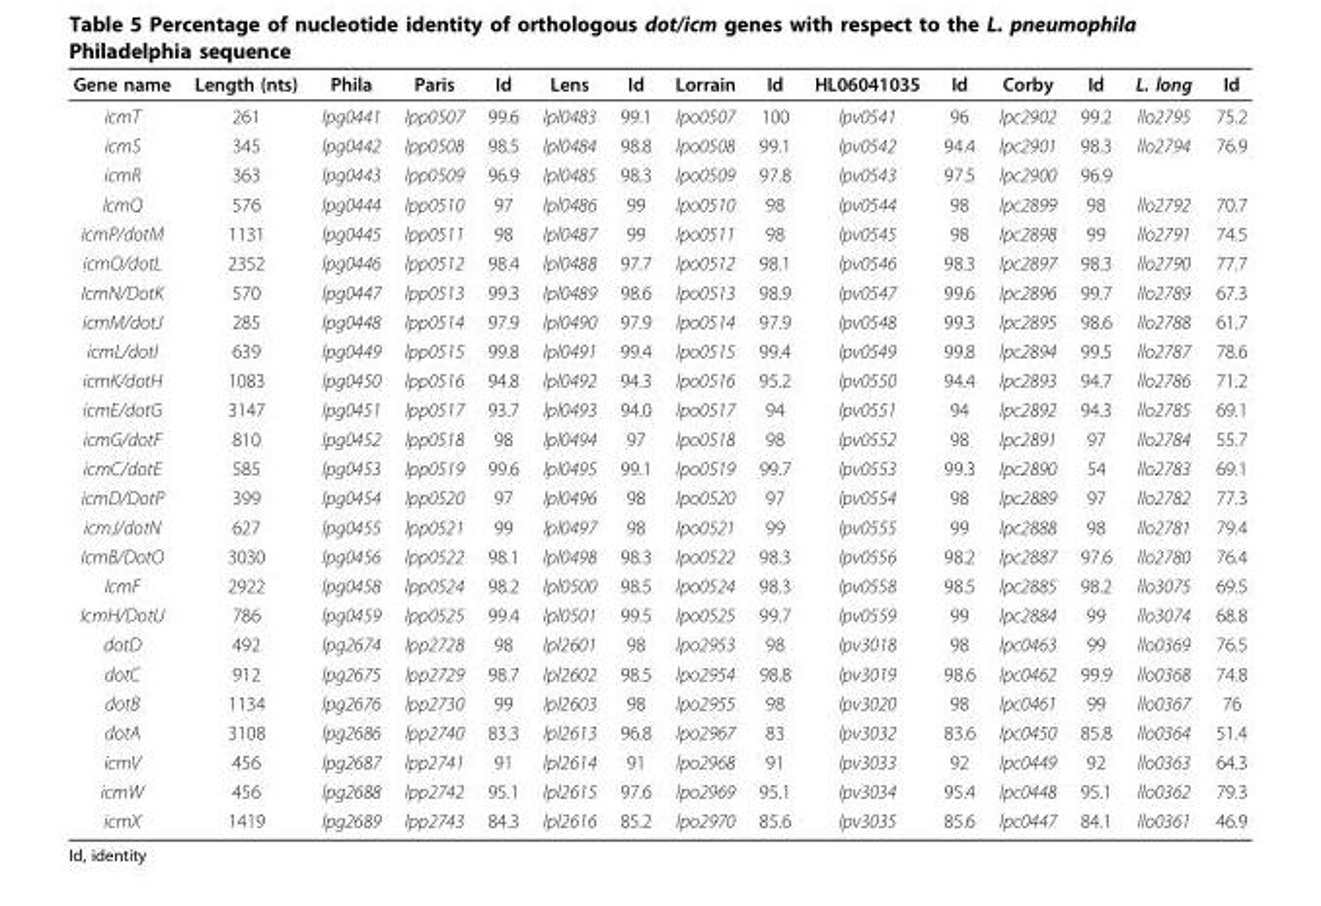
<table><thead><tr><td>Gene name</td><td>Length (nts)</td><td>Phila</td><td>Paris</td><td>Id</td><td>Lens</td><td>Id</td><td>Lorrain</td><td>Id</td><td>HL06041035</td><td>Id</td><td>Corby</td><td>Id</td><td>L. long</td><td>Id</td></tr></thead><tbody><tr><td>icmT</td><td>261</td><td>lpg0441</td><td>lpp0507</td><td>99.6</td><td>lpl0483</td><td>99.1</td><td>lpo0507</td><td>100</td><td>lpv0541</td><td>96</td><td>lpc2902</td><td>99.2</td><td>llo2795</td><td>75.2</td></tr><tr><td>icmS</td><td>345</td><td>lpg0442</td><td>lpp0508</td><td>98.5</td><td>lpl0484</td><td>98.8</td><td>lpo0508</td><td>99.1</td><td>lpv0542</td><td>94.4</td><td>lpc2901</td><td>98.3</td><td>llo2794</td><td>76.9</td></tr><tr><td>icmR</td><td>363</td><td>lpg0443</td><td>lpp0509</td><td>96.9</td><td>lpl0485</td><td>98.3</td><td>lpo0509</td><td>97.8</td><td>lpv0543</td><td>97.5</td><td>lpc2900</td><td>96.9</td><td></td><td></td></tr><tr><td>IcmQ</td><td>576</td><td>lpg0444</td><td>lpp0510</td><td>97</td><td>lpl0486</td><td>99</td><td>lpo0510</td><td>98</td><td>lpv0544</td><td>98</td><td>lpc2899</td><td>98</td><td>llo2792</td><td>70.7</td></tr><tr><td>icmP/dotM</td><td>1131</td><td>lpg0445</td><td>lpp0511</td><td>98</td><td>lpl0487</td><td>99</td><td>lpo0511</td><td>98</td><td>lpv0545</td><td>98</td><td>lpc2898</td><td>99</td><td>llo2791</td><td>74.5</td></tr><tr><td>icmO/dotL</td><td>2352</td><td>lpg0446</td><td>lpp0512</td><td>98.4</td><td>lpl0488</td><td>97.7</td><td>lpo0512</td><td>98.1</td><td>lpv0546</td><td>98.3</td><td>lpc2897</td><td>98.3</td><td>llo2790</td><td>77.7</td></tr><tr><td>IcmN/DotK</td><td>570</td><td>lpg0447</td><td>lpp0513</td><td>99.3</td><td>lpl0489</td><td>98.6</td><td>lpo0513</td><td>98.9</td><td>lpv0547</td><td>99.6</td><td>lpc2896</td><td>99.7</td><td>llo2789</td><td>67.3</td></tr><tr><td>icmM/dotJ</td><td>285</td><td>lpg0448</td><td>lpp0514</td><td>97.9</td><td>lpl0490</td><td>97.9</td><td>lpo0514</td><td>97.9</td><td>lpv0548</td><td>99.3</td><td>lpc2895</td><td>98.6</td><td>llo2788</td><td>61.7</td></tr><tr><td>icmL/dotI</td><td>639</td><td>lpg0449</td><td>lpp0515</td><td>99.8</td><td>lpl0491</td><td>99.4</td><td>lpo0515</td><td>99.4</td><td>lpv0549</td><td>99.8</td><td>lpc2894</td><td>99.5</td><td>llo2787</td><td>78.6</td></tr><tr><td>icmK/dotH</td><td>1083</td><td>lpg0450</td><td>lpp0516</td><td>94.8</td><td>lpl0492</td><td>94.3</td><td>lpo0516</td><td>95.2</td><td>lpv0550</td><td>94.4</td><td>lpc2893</td><td>94.7</td><td>llo2786</td><td>71.2</td></tr><tr><td>icmE/dotG</td><td>3147</td><td>lpg0451</td><td>lpp0517</td><td>93.7</td><td>lpl0493</td><td>94.0</td><td>lpo0517</td><td>94</td><td>lpv0551</td><td>94</td><td>lpc2892</td><td>94.3</td><td>llo2785</td><td>69.1</td></tr><tr><td>icmG/dotF</td><td>810</td><td>lpg0452</td><td>lpp0518</td><td>98</td><td>lpl0494</td><td>97</td><td>lpo0518</td><td>98</td><td>lpv0552</td><td>98</td><td>lpc2891</td><td>97</td><td>llo2784</td><td>55.7</td></tr><tr><td>icmC/dotE</td><td>585</td><td>lpg0453</td><td>lpp0519</td><td>99.6</td><td>lpl0495</td><td>99.1</td><td>lpo0519</td><td>99.7</td><td>lpv0553</td><td>99.3</td><td>lpc2890</td><td>54</td><td>llo2783</td><td>69.1</td></tr><tr><td>icmD/DotP</td><td>399</td><td>lpg0454</td><td>lpp0520</td><td>97</td><td>lpl0496</td><td>98</td><td>lpo0520</td><td>97</td><td>lpv0554</td><td>98</td><td>lpc2889</td><td>97</td><td>llo2782</td><td>77.3</td></tr><tr><td>icmJ/dotN</td><td>627</td><td>lpg0455</td><td>lpp0521</td><td>99</td><td>lpl0497</td><td>98</td><td>lpo0521</td><td>99</td><td>lpv0555</td><td>99</td><td>lpc2888</td><td>98</td><td>llo2781</td><td>79.4</td></tr><tr><td>IcmB/DotO</td><td>3030</td><td>lpg0456</td><td>lpp0522</td><td>98.1</td><td>lpl0498</td><td>98.3</td><td>lpo0522</td><td>98.3</td><td>lpv0556</td><td>98.2</td><td>lpc2887</td><td>97.6</td><td>llo2780</td><td>76.4</td></tr><tr><td>IcmF</td><td>2922</td><td>lpg0458</td><td>lpp0524</td><td>98.2</td><td>lpl0500</td><td>98.5</td><td>lpo0524</td><td>98.3</td><td>lpv0558</td><td>98.5</td><td>lpc2885</td><td>98.2</td><td>llo3075</td><td>69.5</td></tr><tr><td>IcmH/DotU</td><td>786</td><td>lpg0459</td><td>lpp0525</td><td>99.4</td><td>lpl0501</td><td>99.5</td><td>lpo0525</td><td>99.7</td><td>lpv0559</td><td>99</td><td>lpc2884</td><td>99</td><td>llo3074</td><td>68.8</td></tr><tr><td>dotD</td><td>492</td><td>lpg2674</td><td>lpp2728</td><td>98</td><td>lpl2601</td><td>98</td><td>lpo2953</td><td>98</td><td>lpv3018</td><td>98</td><td>lpc0463</td><td>99</td><td>llo0369</td><td>76.5</td></tr><tr><td>dotC</td><td>912</td><td>lpg2675</td><td>lpp2729</td><td>98.7</td><td>lpl2602</td><td>98.5</td><td>lpo2954</td><td>98.8</td><td>lpv3019</td><td>98.6</td><td>lpc0462</td><td>99.9</td><td>llo0368</td><td>74.8</td></tr><tr><td>dotB</td><td>1134</td><td>lpg2676</td><td>lpp2730</td><td>99</td><td>lpl2603</td><td>98</td><td>lpo2955</td><td>98</td><td>lpv3020</td><td>98</td><td>lpc0461</td><td>99</td><td>llo0367</td><td>76</td></tr><tr><td>dotA</td><td>3108</td><td>lpg2686</td><td>lpp2740</td><td>83.3</td><td>lpl2613</td><td>96.8</td><td>lpo2967</td><td>83</td><td>lpv3032</td><td>83.6</td><td>lpc0450</td><td>85.8</td><td>llo0364</td><td>51.4</td></tr><tr><td>icmV</td><td>456</td><td>lpg2687</td><td>lpp2741</td><td>91</td><td>lpl2614</td><td>91</td><td>lpo2968</td><td>91</td><td>lpv3033</td><td>92</td><td>lpc0449</td><td>92</td><td>llo0363</td><td>64.3</td></tr><tr><td>icmW</td><td>456</td><td>lpg2688</td><td>lpp2742</td><td>95.1</td><td>lpl2615</td><td>97.6</td><td>lpo2969</td><td>95.1</td><td>lpv3034</td><td>95.4</td><td>lpc0448</td><td>95.1</td><td>llo0362</td><td>79.3</td></tr><tr><td>icmX</td><td>1419</td><td>lpg2689</td><td>lpp2743</td><td>84.3</td><td>lpl2616</td><td>85.2</td><td>lpo2970</td><td>85.6</td><td>lpv3035</td><td>85.6</td><td>lpc0447</td><td>84.1</td><td>llo0361</td><td>46.9</td></tr></tbody></table>